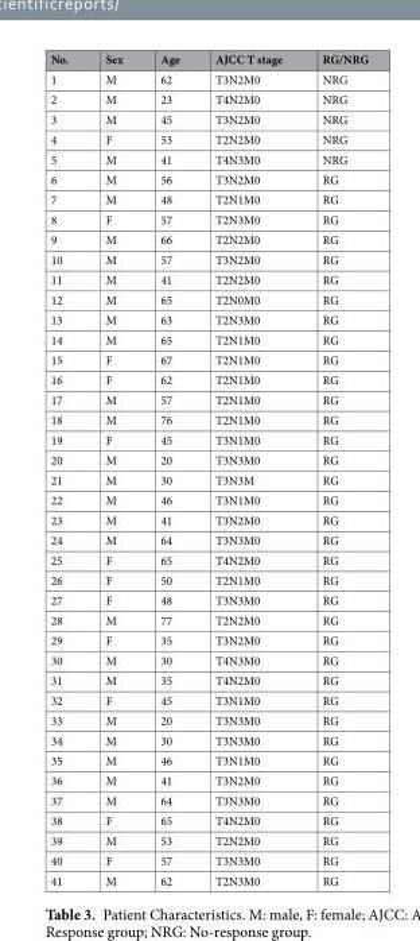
<table><thead><tr><td>No.</td><td>Sex</td><td>Age</td><td>AJCC T stage</td><td>RG/NRG</td></tr></thead><tbody><tr><td>1</td><td>M</td><td>62</td><td>T3N2M0</td><td>NRG</td></tr><tr><td>2</td><td>M</td><td>23</td><td>T4N2M0</td><td>NRG</td></tr><tr><td>3</td><td>M</td><td>45</td><td>T3N2M0</td><td>NRG</td></tr><tr><td>4</td><td>F</td><td>53</td><td>T2N2M0</td><td>NRG</td></tr><tr><td>5</td><td>M</td><td>41</td><td>T4N3M0</td><td>NRG</td></tr><tr><td>6</td><td>M</td><td>56</td><td>T3N2M0</td><td>RG</td></tr><tr><td>7</td><td>M</td><td>48</td><td>T2N1M0</td><td>RG</td></tr><tr><td>8</td><td>F</td><td>57</td><td>T2N3M0</td><td>RG</td></tr><tr><td>9</td><td>M</td><td>66</td><td>T2N2M0</td><td>RG</td></tr><tr><td>10</td><td>M</td><td>57</td><td>T3N2M0</td><td>RG</td></tr><tr><td>11</td><td>M</td><td>41</td><td>T2N2M0</td><td>RG</td></tr><tr><td>12</td><td>M</td><td>65</td><td>T2N0M0</td><td>RG</td></tr><tr><td>13</td><td>M</td><td>63</td><td>T2N3M0</td><td>RG</td></tr><tr><td>14</td><td>M</td><td>65</td><td>T2N1M0</td><td>RG</td></tr><tr><td>15</td><td>F</td><td>67</td><td>T2N1M0</td><td>RG</td></tr><tr><td>16</td><td>F</td><td>62</td><td>T2N1M0</td><td>RG</td></tr><tr><td>17</td><td>M</td><td>57</td><td>T2N1M0</td><td>RG</td></tr><tr><td>18</td><td>M</td><td>76</td><td>T2N1M0</td><td>RG</td></tr><tr><td>19</td><td>F</td><td>45</td><td>T3N1M0</td><td>RG</td></tr><tr><td>20</td><td>M</td><td>20</td><td>T3N3M0</td><td>RG</td></tr><tr><td>21</td><td>M</td><td>30</td><td>T3N3M</td><td>RG</td></tr><tr><td>22</td><td>M</td><td>46</td><td>T3N1M0</td><td>RG</td></tr><tr><td>23</td><td>M</td><td>41</td><td>T3N2M0</td><td>RG</td></tr><tr><td>24</td><td>M</td><td>64</td><td>T3N3M0</td><td>RG</td></tr><tr><td>25</td><td>F</td><td>65</td><td>T4N2M0</td><td>RG</td></tr><tr><td>26</td><td>F</td><td>50</td><td>T2N1M0</td><td>RG</td></tr><tr><td>27</td><td>F</td><td>48</td><td>T3N3M0</td><td>RG</td></tr><tr><td>28</td><td>M</td><td>77</td><td>T2N2M0</td><td>RG</td></tr><tr><td>29</td><td>F</td><td>35</td><td>T3N2M0</td><td>RG</td></tr><tr><td>30</td><td>M</td><td>30</td><td>T4N3M0</td><td>RG</td></tr><tr><td>31</td><td>M</td><td>35</td><td>T4N2M0</td><td>RG</td></tr><tr><td>32</td><td>F</td><td>45</td><td>T3N1M0</td><td>RG</td></tr><tr><td>33</td><td>M</td><td>20</td><td>T3N3M0</td><td>RG</td></tr><tr><td>34</td><td>M</td><td>30</td><td>T3N3M0</td><td>RG</td></tr><tr><td>35</td><td>M</td><td>46</td><td>T3N1M0</td><td>RG</td></tr><tr><td>36</td><td>M</td><td>41</td><td>T3N2M0</td><td>RG</td></tr><tr><td>37</td><td>M</td><td>64</td><td>T3N3M0</td><td>RG</td></tr><tr><td>38</td><td>F</td><td>65</td><td>T4N2M0</td><td>RG</td></tr><tr><td>39</td><td>M</td><td>53</td><td>T2N2M0</td><td>RG</td></tr><tr><td>40</td><td>F</td><td>57</td><td>T3N3M0</td><td>RG</td></tr><tr><td>41</td><td>M</td><td>62</td><td>T2N3M0</td><td>RG</td></tr></tbody></table>